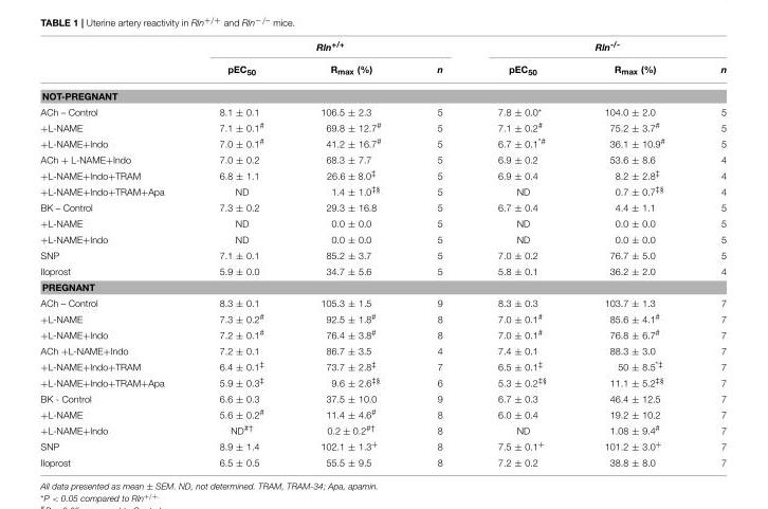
<table><thead><tr><td rowspan="2"></td><td colspan="3">Rln<sup>+/+</sup></td><td colspan="3">Rln<sup>-/-</sup></td></tr><tr><td>pEC<sub>50</sub></td><td>R<sub>max</sub> (%)</td><td>n</td><td>pEC<sub>50</sub></td><td>R<sub>max</sub> (%)</td><td>n</td></tr></thead><tbody><tr><td colspan="7">NOT-PREGNANT</td></tr><tr><td>ACh – Control</td><td>8.1 ± 0.1</td><td>106.5 ± 2.3</td><td>5</td><td>7.8 ± 0.0*</td><td>104.0 ± 2.0</td><td>5</td></tr><tr><td>+L-NAME</td><td>7.1 ± 0.1<sup>#</sup></td><td>69.8 ± 12.7<sup>#</sup></td><td>5</td><td>7.1 ± 0.2<sup>#</sup></td><td>75.2 ± 3.7<sup>#</sup></td><td>5</td></tr><tr><td>+L-NAME+Indo</td><td>7.0 ± 0.1<sup>#</sup></td><td>41.2 ± 16.7<sup>#</sup></td><td>5</td><td>6.7 ± 0.1<sup>*#</sup></td><td>36.1 ± 10.9<sup>#</sup></td><td>5</td></tr><tr><td>ACh + L-NAME+Indo</td><td>7.0 ± 0.2</td><td>68.3 ± 7.7</td><td>5</td><td>6.9 ± 0.2</td><td>53.6 ± 8.6</td><td>4</td></tr><tr><td>+L-NAME+Indo+TRAM</td><td>6.8 ± 1.1</td><td>26.6 ± 8.0<sup>‡</sup></td><td>5</td><td>6.9 ± 0.4</td><td>8.2 ± 2.8<sup>‡</sup></td><td>4</td></tr><tr><td>+L-NAME+Indo+TRAM+Apa</td><td>ND</td><td>1.4 ± 1.0<sup>‡§</sup></td><td>5</td><td>ND</td><td>0.7 ± 0.7<sup>‡§</sup></td><td>4</td></tr><tr><td>BK – Control</td><td>7.3 ± 0.2</td><td>29.3 ± 16.8</td><td>5</td><td>6.7 ± 0.4</td><td>4.4 ± 1.1</td><td>5</td></tr><tr><td>+L-NAME</td><td>ND</td><td>0.0 ± 0.0</td><td>5</td><td>ND</td><td>0.0 ± 0.0</td><td>5</td></tr><tr><td>+L-NAME+Indo</td><td>ND</td><td>0.0 ± 0.0</td><td>5</td><td>ND</td><td>0.0 ± 0.0</td><td>5</td></tr><tr><td>SNP</td><td>7.1 ± 0.1</td><td>85.2 ± 3.7</td><td>5</td><td>7.0 ± 0.2</td><td>76.7 ± 5.0</td><td>5</td></tr><tr><td>Iloprost</td><td>5.9 ± 0.0</td><td>34.7 ± 5.6</td><td>5</td><td>5.8 ± 0.1</td><td>36.2 ± 2.0</td><td>4</td></tr><tr><td colspan="7">PREGNANT</td></tr><tr><td>ACh – Control</td><td>8.3 ± 0.1</td><td>105.3 ± 1.5</td><td>9</td><td>8.3 ± 0.3</td><td>103.7 ± 1.3</td><td>7</td></tr><tr><td>+L-NAME</td><td>7.3 ± 0.2<sup>#</sup></td><td>92.5 ± 1.8<sup>#</sup></td><td>8</td><td>7.0 ± 0.1<sup>#</sup></td><td>85.6 ± 4.1<sup>#</sup></td><td>7</td></tr><tr><td>+L-NAME+Indo</td><td>7.2 ± 0.1<sup>#</sup></td><td>76.4 ± 3.8<sup>#</sup></td><td>8</td><td>7.0 ± 0.1<sup>#</sup></td><td>76.8 ± 6.7<sup>#</sup></td><td>7</td></tr><tr><td>ACh +L-NAME+Indo</td><td>7.2 ± 0.1</td><td>86.7 ± 3.5</td><td>4</td><td>7.4 ± 0.1</td><td>88.3 ± 3.0</td><td>7</td></tr><tr><td>+L-NAME+Indo+TRAM</td><td>6.4 ± 0.1<sup>‡</sup></td><td>73.7 ± 2.8<sup>‡</sup></td><td>7</td><td>6.5 ± 0.1<sup>‡</sup></td><td>50 ± 8.5<sup>*‡</sup></td><td>7</td></tr><tr><td>+L-NAME+Indo+TRAM+Apa</td><td>5.9 ± 0.3<sup>‡</sup></td><td>9.6 ± 2.6<sup>‡§</sup></td><td>6</td><td>5.3 ± 0.2<sup>‡§</sup></td><td>11.1 ± 5.2<sup>‡§</sup></td><td>7</td></tr><tr><td>BK - Control</td><td>6.6 ± 0.3</td><td>37.5 ± 10.0</td><td>9</td><td>6.7 ± 0.3</td><td>46.4 ± 12.5</td><td>7</td></tr><tr><td>+L-NAME</td><td>5.6 ± 0.2<sup>#</sup></td><td>11.4 ± 4.6<sup>#</sup></td><td>8</td><td>6.0 ± 0.4</td><td>19.2 ± 10.2</td><td>7</td></tr><tr><td>+L-NAME+Indo</td><td>ND<sup>#†</sup></td><td>0.2 ± 0.2<sup>#†</sup></td><td>8</td><td>ND</td><td>1.08 ± 9.4<sup>#</sup></td><td>7</td></tr><tr><td>SNP</td><td>8.9 ± 1.4</td><td>102.1 ± 1.3<sup>+</sup></td><td>8</td><td>7.5 ± 0.1<sup>+</sup></td><td>101.2 ± 3.0<sup>+</sup></td><td>7</td></tr><tr><td>Iloprost</td><td>6.5 ± 0.5</td><td>55.5 ± 9.5</td><td>8</td><td>7.2 ± 0.2</td><td>38.8 ± 8.0</td><td>7</td></tr></tbody></table>